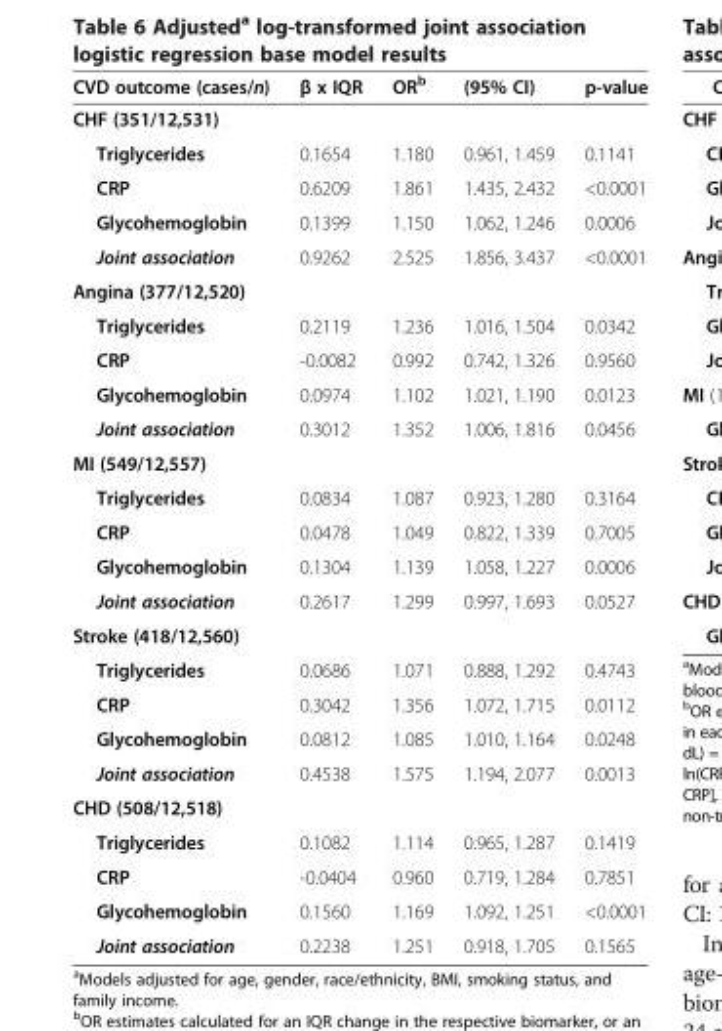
<table><thead><tr><td>CVD outcome (cases/n)</td><td>β x IQR</td><td>OR<sup>b</sup></td><td>(95% CI)</td><td>p-value</td></tr></thead><tbody><tr><td colspan="5">CHF (351/12,531)</td></tr><tr><td>Triglycerides</td><td>0.1654</td><td>1.180</td><td>0.961, 1.459</td><td>0.1141</td></tr><tr><td>CRP</td><td>0.6209</td><td>1.861</td><td>1.435, 2.432</td><td>&lt;0.0001</td></tr><tr><td>Glycohemoglobin</td><td>0.1399</td><td>1.150</td><td>1.062, 1.246</td><td>0.0006</td></tr><tr><td>Joint association</td><td>0.9262</td><td>2.525</td><td>1.856, 3.437</td><td>&lt;0.0001</td></tr><tr><td colspan="5">Angina (377/12,520)</td></tr><tr><td>Triglycerides</td><td>0.2119</td><td>1.236</td><td>1.016, 1.504</td><td>0.0342</td></tr><tr><td>CRP</td><td>-0.0082</td><td>0.992</td><td>0.742, 1.326</td><td>0.9560</td></tr><tr><td>Glycohemoglobin</td><td>0.0974</td><td>1.102</td><td>1.021, 1.190</td><td>0.0123</td></tr><tr><td>Joint association</td><td>0.3012</td><td>1.352</td><td>1.006, 1.816</td><td>0.0456</td></tr><tr><td colspan="5">MI (549/12,557)</td></tr><tr><td>Triglycerides</td><td>0.0834</td><td>1.087</td><td>0.923, 1.280</td><td>0.3164</td></tr><tr><td>CRP</td><td>0.0478</td><td>1.049</td><td>0.822, 1.339</td><td>0.7005</td></tr><tr><td>Glycohemoglobin</td><td>0.1304</td><td>1.139</td><td>1.058, 1.227</td><td>0.0006</td></tr><tr><td>Joint association</td><td>0.2617</td><td>1.299</td><td>0.997, 1.693</td><td>0.0527</td></tr><tr><td colspan="5">Stroke (418/12,560)</td></tr><tr><td>Triglycerides</td><td>0.0686</td><td>1.071</td><td>0.888, 1.292</td><td>0.4743</td></tr><tr><td>CRP</td><td>0.3042</td><td>1.356</td><td>1.072, 1.715</td><td>0.0112</td></tr><tr><td>Glycohemoglobin</td><td>0.0812</td><td>1.085</td><td>1.010, 1.164</td><td>0.0248</td></tr><tr><td>Joint association</td><td>0.4538</td><td>1.575</td><td>1.194, 2.077</td><td>0.0013</td></tr><tr><td colspan="5">CHD (508/12,518)</td></tr><tr><td>Triglycerides</td><td>0.1082</td><td>1.114</td><td>0.965, 1.287</td><td>0.1419</td></tr><tr><td>CRP</td><td>-0.0404</td><td>0.960</td><td>0.719, 1.284</td><td>0.7851</td></tr><tr><td>Glycohemoglobin</td><td>0.1560</td><td>1.169</td><td>1.092, 1.251</td><td>&lt;0.0001</td></tr><tr><td>Joint association</td><td>0.2238</td><td>1.251</td><td>0.918, 1.705</td><td>0.1565</td></tr></tbody></table>